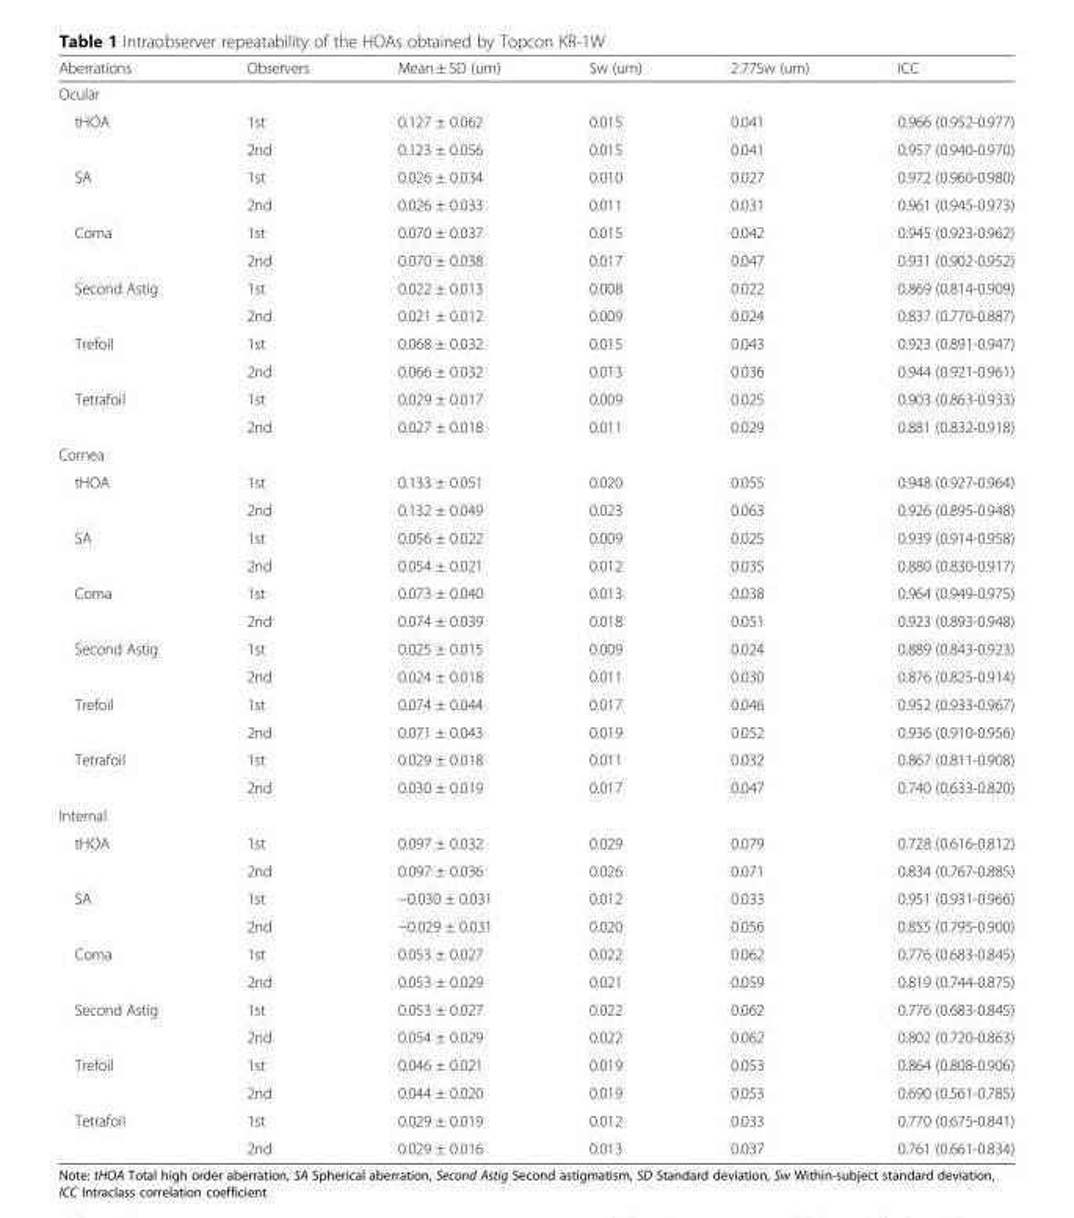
<table><thead><tr><td>Aberrations</td><td>Observers</td><td>Mean ± SD (um)</td><td>Sw (um)</td><td>2.77Sw (um)</td><td>ICC</td></tr></thead><tbody><tr><td colspan="6">Ocular</td></tr><tr><td rowspan="2">tHOA</td><td>1st</td><td>0.127 ± 0.062</td><td>0.015</td><td>0.041</td><td>0.966 (0.952-0.977)</td></tr><tr><td>2nd</td><td>0.123 ± 0.056</td><td>0.015</td><td>0.041</td><td>0.957 (0.940-0.970)</td></tr><tr><td rowspan="2">SA</td><td>1st</td><td>0.026 ± 0.034</td><td>0.010</td><td>0.027</td><td>0.972 (0.960-0.980)</td></tr><tr><td>2nd</td><td>0.026 ± 0.033</td><td>0.011</td><td>0.031</td><td>0.961 (0.945-0.973)</td></tr><tr><td rowspan="2">Coma</td><td>1st</td><td>0.070 ± 0.037</td><td>0.015</td><td>0.042</td><td>0.945 (0.923-0.962)</td></tr><tr><td>2nd</td><td>0.070 ± 0.038</td><td>0.017</td><td>0.047</td><td>0.931 (0.902-0.952)</td></tr><tr><td rowspan="2">Second Astig</td><td>1st</td><td>0.022 ± 0.013</td><td>0.008</td><td>0.022</td><td>0.869 (0.814-0.909)</td></tr><tr><td>2nd</td><td>0.021 ± 0.012</td><td>0.009</td><td>0.024</td><td>0.837 (0.770-0.887)</td></tr><tr><td rowspan="2">Trefoil</td><td>1st</td><td>0.068 ± 0.032</td><td>0.015</td><td>0.043</td><td>0.923 (0.891-0.947)</td></tr><tr><td>2nd</td><td>0.066 ± 0.032</td><td>0.013</td><td>0.036</td><td>0.944 (0.921-0.961)</td></tr><tr><td rowspan="2">Tetrafoil</td><td>1st</td><td>0.029 ± 0.017</td><td>0.009</td><td>0.025</td><td>0.903 (0.863-0.933)</td></tr><tr><td>2nd</td><td>0.027 ± 0.018</td><td>0.011</td><td>0.029</td><td>0.881 (0.832-0.918)</td></tr><tr><td colspan="6">Cornea</td></tr><tr><td rowspan="2">tHOA</td><td>1st</td><td>0.133 ± 0.051</td><td>0.020</td><td>0.055</td><td>0.948 (0.927-0.964)</td></tr><tr><td>2nd</td><td>0.132 ± 0.049</td><td>0.023</td><td>0.063</td><td>0.926 (0.895-0.948)</td></tr><tr><td rowspan="2">SA</td><td>1st</td><td>0.056 ± 0.022</td><td>0.009</td><td>0.025</td><td>0.939 (0.914-0.958)</td></tr><tr><td>2nd</td><td>0.054 ± 0.021</td><td>0.012</td><td>0.035</td><td>0.880 (0.830-0.917)</td></tr><tr><td rowspan="2">Coma</td><td>1st</td><td>0.073 ± 0.040</td><td>0.013</td><td>0.038</td><td>0.964 (0.949-0.975)</td></tr><tr><td>2nd</td><td>0.074 ± 0.039</td><td>0.018</td><td>0.051</td><td>0.923 (0.893-0.948)</td></tr><tr><td rowspan="2">Second Astig</td><td>1st</td><td>0.025 ± 0.015</td><td>0.009</td><td>0.024</td><td>0.889 (0.843-0.923)</td></tr><tr><td>2nd</td><td>0.024 ± 0.018</td><td>0.011</td><td>0.030</td><td>0.876 (0.825-0.914)</td></tr><tr><td rowspan="2">Trefoil</td><td>1st</td><td>0.074 ± 0.044</td><td>0.017</td><td>0.046</td><td>0.952 (0.933-0.967)</td></tr><tr><td>2nd</td><td>0.071 ± 0.043</td><td>0.019</td><td>0.052</td><td>0.936 (0.910-0.956)</td></tr><tr><td rowspan="2">Tetrafoil</td><td>1st</td><td>0.029 ± 0.018</td><td>0.011</td><td>0.032</td><td>0.867 (0.811-0.908)</td></tr><tr><td>2nd</td><td>0.030 ± 0.019</td><td>0.017</td><td>0.047</td><td>0.740 (0.633-0.820)</td></tr><tr><td colspan="6">Internal</td></tr><tr><td rowspan="2">tHOA</td><td>1st</td><td>0.097 ± 0.032</td><td>0.029</td><td>0.079</td><td>0.728 (0.616-0.812)</td></tr><tr><td>2nd</td><td>0.097 ± 0.036</td><td>0.026</td><td>0.071</td><td>0.834 (0.767-0.885)</td></tr><tr><td rowspan="2">SA</td><td>1st</td><td>−0.030 ± 0.031</td><td>0.012</td><td>0.033</td><td>0.951 (0.931-0.966)</td></tr><tr><td>2nd</td><td>−0.029 ± 0.031</td><td>0.020</td><td>0.056</td><td>0.855 (0.795-0.900)</td></tr><tr><td rowspan="2">Coma</td><td>1st</td><td>0.053 ± 0.027</td><td>0.022</td><td>0.062</td><td>0.776 (0.683-0.845)</td></tr><tr><td>2nd</td><td>0.053 ± 0.029</td><td>0.021</td><td>0.059</td><td>0.819 (0.744-0.875)</td></tr><tr><td rowspan="2">Second Astig</td><td>1st</td><td>0.053 ± 0.027</td><td>0.022</td><td>0.062</td><td>0.776 (0.683-0.845)</td></tr><tr><td>2nd</td><td>0.054 ± 0.029</td><td>0.022</td><td>0.062</td><td>0.802 (0.720-0.863)</td></tr><tr><td rowspan="2">Trefoil</td><td>1st</td><td>0.046 ± 0.021</td><td>0.019</td><td>0.053</td><td>0.864 (0.808-0.906)</td></tr><tr><td>2nd</td><td>0.044 ± 0.020</td><td>0.019</td><td>0.053</td><td>0.690 (0.561-0.785)</td></tr><tr><td rowspan="2">Tetrafoil</td><td>1st</td><td>0.029 ± 0.019</td><td>0.012</td><td>0.033</td><td>0.770 (0.675-0.841)</td></tr><tr><td>2nd</td><td>0.029 ± 0.016</td><td>0.013</td><td>0.037</td><td>0.761 (0.661-0.834)</td></tr></tbody></table>